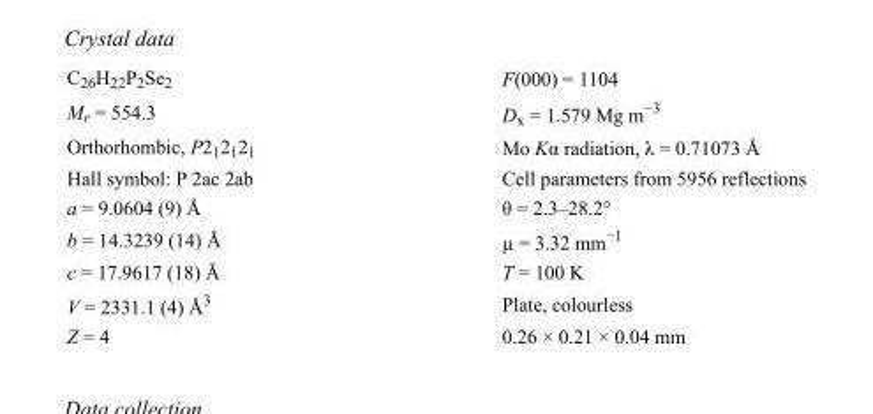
<table><tbody><tr><td>C<sub>26</sub>H<sub>22</sub>P<sub>2</sub>Se<sub>2</sub></td><td>F(000) = 1104</td></tr><tr><td>M<sub>r</sub> = 554.3</td><td>D<sub>x</sub> = 1.579 Mg m<sup>−3</sup></td></tr><tr><td>Orthorhombic, P2<sub>1</sub>2<sub>1</sub>2<sub>1</sub></td><td>Mo Kα radiation, λ = 0.71073 Å</td></tr><tr><td>Hall symbol: P 2ac 2ab</td><td>Cell parameters from 5956 reflections</td></tr><tr><td>a = 9.0604 (9) Å</td><td>θ = 2.3–28.2°</td></tr><tr><td>b = 14.3239 (14) Å</td><td>µ = 3.32 mm<sup>−1</sup></td></tr><tr><td>c = 17.9617 (18) Å</td><td>T = 100 K</td></tr><tr><td>V = 2331.1 (4) Å<sup>3</sup></td><td>Plate, colourless</td></tr><tr><td>Z = 4</td><td>0.26 × 0.21 × 0.04 mm</td></tr></tbody></table>